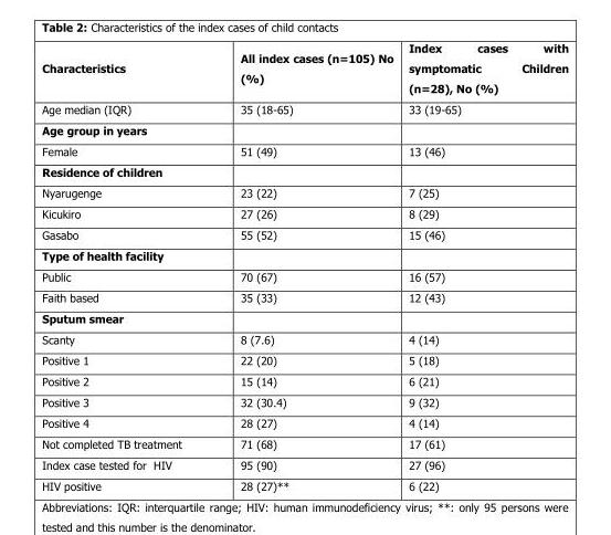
<table><thead><tr><td>Characteristics</td><td>All index cases (n=105) No (%)</td><td>Index cases with symptomatic Children (n=28), No (%)</td></tr></thead><tbody><tr><td>Age median (IQR)</td><td>35 (18-65)</td><td>33 (19-65)</td></tr><tr><td colspan="3">Age group in years</td></tr><tr><td>Female</td><td>51 (49)</td><td>13 (46)</td></tr><tr><td colspan="3">Residence of children</td></tr><tr><td>Nyarugenge</td><td>23 (22)</td><td>7 (25)</td></tr><tr><td>Kicukiro</td><td>27 (26)</td><td>8 (29)</td></tr><tr><td>Gasabo</td><td>55 (52)</td><td>15 (46)</td></tr><tr><td colspan="3">Type of health facility</td></tr><tr><td>Public</td><td>70 (67)</td><td>16 (57)</td></tr><tr><td>Faith based</td><td>35 (33)</td><td>12 (43)</td></tr><tr><td colspan="3">Sputum smear</td></tr><tr><td>Scanty</td><td>8 (7.6)</td><td>4 (14)</td></tr><tr><td>Positive 1</td><td>22 (20)</td><td>5 (18)</td></tr><tr><td>Positive 2</td><td>15 (14)</td><td>6 (21)</td></tr><tr><td>Positive 3</td><td>32 (30.4)</td><td>9 (32)</td></tr><tr><td>Positive 4</td><td>28 (27)</td><td>4 (14)</td></tr><tr><td>Not completed TB treatment</td><td>71 (68)</td><td>17 (61)</td></tr><tr><td>Index case tested for HIV</td><td>95 (90)</td><td>27 (96)</td></tr><tr><td>HIV positive</td><td>28 (27)**</td><td>6 (22)</td></tr></tbody></table>